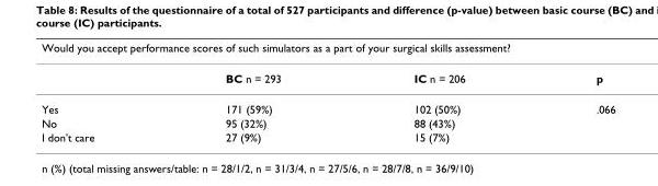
<table><thead><tr><td colspan="4">Would you accept performance scores of such simulators as a part of your surgical skills assessment?</td></tr><tr><td></td><td>BC n = 293</td><td>IC n = 206</td><td>p</td></tr></thead><tbody><tr><td>Yes</td><td>171 (59%)</td><td>102 (50%)</td><td>.066</td></tr><tr><td>No</td><td>95 (32%)</td><td>88 (43%)</td><td></td></tr><tr><td>I don&#x27;t care</td><td>27 (9%)</td><td>15 (7%)</td><td></td></tr></tbody></table>